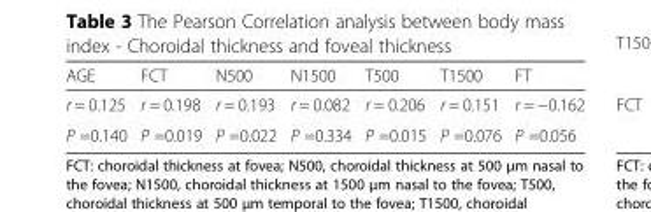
<table><thead><tr><td>AGE</td><td>FCT</td><td>N500</td><td>N1500</td><td>T500</td><td>T1500</td><td>FT</td></tr></thead><tbody><tr><td>r = 0.125</td><td>r = 0.198</td><td>r = 0.193</td><td>r = 0.082</td><td>r = 0.206</td><td>r = 0.151</td><td>r = −0.162</td></tr><tr><td>P =0.140</td><td>P =0.019</td><td>P =0.022</td><td>P =0.334</td><td>P =0.015</td><td>P =0.076</td><td>P =0.056</td></tr></tbody></table>